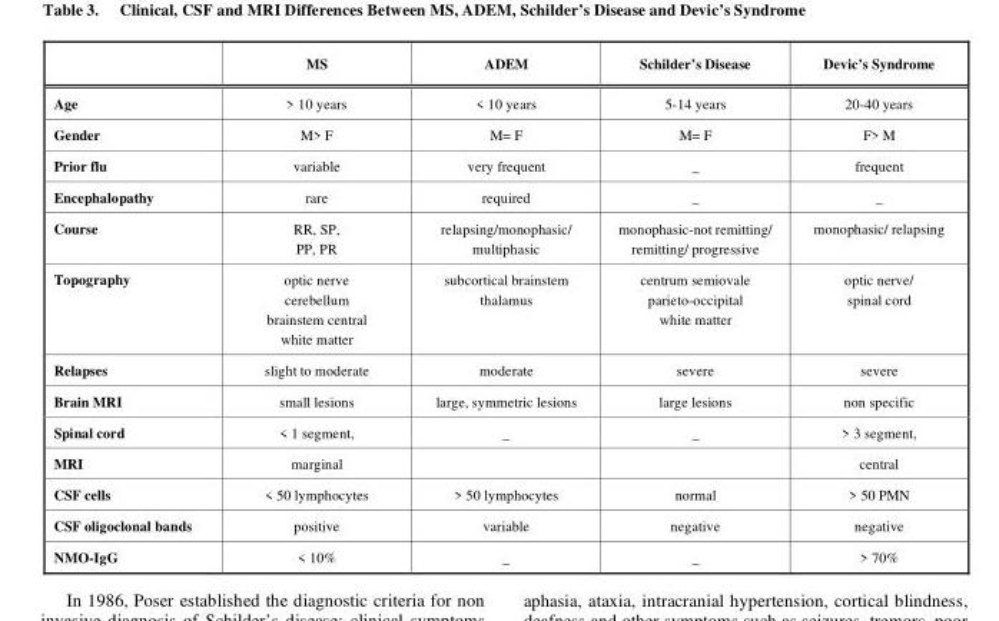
<table><thead><tr><td></td><td>MS</td><td>ADEM</td><td>Schilder’s Disease</td><td>Devic’s Syndrome</td></tr></thead><tbody><tr><td>Age</td><td>&gt; 10 years</td><td>&lt; 10 years</td><td>5-14 years</td><td>20-40 years</td></tr><tr><td>Gender</td><td>M&gt; F</td><td>M= F</td><td>M= F</td><td>F&gt; M</td></tr><tr><td>Prior flu</td><td>variable</td><td>very frequent</td><td>_</td><td>frequent</td></tr><tr><td>Encephalopathy</td><td>rare</td><td>required</td><td>_</td><td>_</td></tr><tr><td>Course</td><td>RR, SP, PP, PR</td><td>relapsing/monophasic/ multiphasic</td><td>monophasic-not remitting/ remitting/ progressive</td><td>monophasic/ relapsing</td></tr><tr><td>Topography</td><td>optic nerve cerebellum brainstem central white matter</td><td>subcortical brainstem thalamus</td><td>centrum semiovale parieto-occipital white matter</td><td>optic nerve/ spinal cord</td></tr><tr><td>Relapses</td><td>slight to moderate</td><td>moderate</td><td>severe</td><td>severe</td></tr><tr><td>Brain MRI</td><td>small lesions</td><td>large, symmetric lesions</td><td>large lesions</td><td>non specific</td></tr><tr><td>Spinal cord</td><td>&lt; 1 segment,</td><td>_</td><td>_</td><td>&gt; 3 segment,</td></tr><tr><td>MRI</td><td>marginal</td><td></td><td></td><td>central</td></tr><tr><td>CSF cells</td><td>&lt; 50 lymphocytes</td><td>&gt; 50 lymphocytes</td><td>normal</td><td>&gt; 50 PMN</td></tr><tr><td>CSF oligoclonal bands</td><td>positive</td><td>variable</td><td>negative</td><td>negative</td></tr><tr><td>NMO-IgG</td><td>&lt; 10%</td><td>_</td><td>_</td><td>&gt; 70%</td></tr></tbody></table>